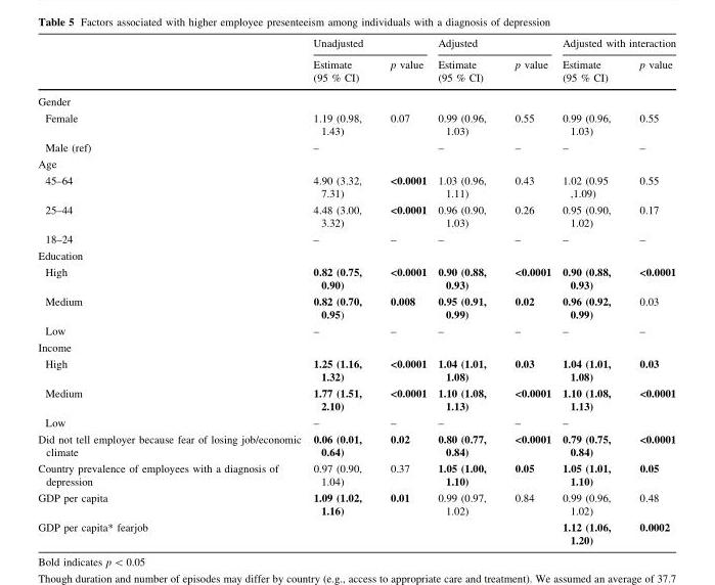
<table><thead><tr><td rowspan="2"></td><td colspan="2">Unadjusted</td><td colspan="2">Adjusted</td><td colspan="2">Adjusted with interaction</td></tr><tr><td>Estimate (95 % CI)</td><td>p value</td><td>Estimate (95 % CI)</td><td>p value</td><td>Estimate (95 % CI)</td><td>p value</td></tr></thead><tbody><tr><td colspan="7">Gender</td></tr><tr><td>Female</td><td>1.19 (0.98, 1.43)</td><td>0.07</td><td>0.99 (0.96, 1.03)</td><td>0.55</td><td>0.99 (0.96, 1.03)</td><td>0.55</td></tr><tr><td>Male (ref)</td><td>–</td><td></td><td>–</td><td>–</td><td>–</td><td>–</td></tr><tr><td colspan="7">Age</td></tr><tr><td>45–64</td><td>4.90 (3.32, 7.31)</td><td>&lt;0.0001</td><td>1.03 (0.96, 1.11)</td><td>0.43</td><td>1.02 (0.95 ,1.09)</td><td>0.55</td></tr><tr><td>25–44</td><td>4.48 (3.00, 3.32)</td><td>&lt;0.0001</td><td>0.96 (0.90, 1.03)</td><td>0.26</td><td>0.95 (0.90, 1.02)</td><td>0.17</td></tr><tr><td>18–24</td><td>–</td><td>–</td><td>–</td><td>–</td><td>–</td><td>–</td></tr><tr><td colspan="7">Education</td></tr><tr><td>High</td><td>0.82 (0.75, 0.90)</td><td>&lt;0.0001</td><td>0.90 (0.88, 0.93)</td><td>&lt;0.0001</td><td>0.90 (0.88, 0.93)</td><td>&lt;0.0001</td></tr><tr><td>Medium</td><td>0.82 (0.70, 0.95)</td><td>0.008</td><td>0.95 (0.91, 0.99)</td><td>0.02</td><td>0.96 (0.92, 0.99)</td><td>0.03</td></tr><tr><td>Low</td><td>–</td><td>–</td><td>–</td><td>–</td><td>–</td><td>–</td></tr><tr><td colspan="7">Income</td></tr><tr><td>High</td><td>1.25 (1.16, 1.32)</td><td>&lt;0.0001</td><td>1.04 (1.01, 1.08)</td><td>0.03</td><td>1.04 (1.01, 1.08)</td><td>0.03</td></tr><tr><td>Medium</td><td>1.77 (1.51, 2.10)</td><td>&lt;0.0001</td><td>1.10 (1.08, 1.13)</td><td>&lt;0.0001</td><td>1.10 (1.08, 1.13)</td><td>&lt;0.0001</td></tr><tr><td>Low</td><td>–</td><td>–</td><td>–</td><td>–</td><td>–</td><td></td></tr><tr><td>Did not tell employer because fear of losing job/economic climate</td><td>0.06 (0.01, 0.64)</td><td>0.02</td><td>0.80 (0.77, 0.84)</td><td>&lt;0.0001</td><td>0.79 (0.75, 0.84)</td><td>&lt;0.0001</td></tr><tr><td>Country prevalence of employees with a diagnosis of depression</td><td>0.97 (0.90, 1.04)</td><td>0.37</td><td>1.05 (1.00, 1.10)</td><td>0.05</td><td>1.05 (1.01, 1.10)</td><td>0.05</td></tr><tr><td>GDP per capita</td><td>1.09 (1.02, 1.16)</td><td>0.01</td><td>0.99 (0.97, 1.02)</td><td>0.84</td><td>0.99 (0.96, 1.02)</td><td>0.48</td></tr><tr><td>GDP per capita* fearjob</td><td></td><td></td><td></td><td></td><td>1.12 (1.06, 1.20)</td><td>0.0002</td></tr></tbody></table>